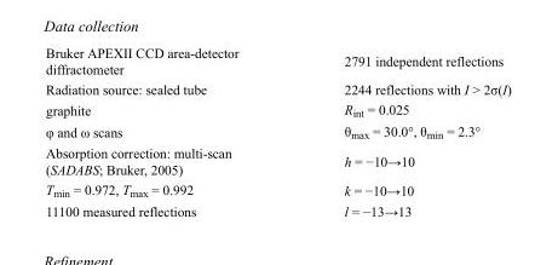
<table><tbody><tr><td>Bruker APEXII CCD area-detector diffractometer</td><td>2791 independent reflections</td></tr><tr><td>Radiation source: sealed tube</td><td>2244 reflections with I &gt; 2σ(I)</td></tr><tr><td>graphite</td><td>R<sub>int</sub> = 0.025</td></tr><tr><td>φ and ω scans</td><td>θ<sub>max</sub> = 30.0°, θ<sub>min</sub> = 2.3°</td></tr><tr><td>Absorption correction: multi-scan (SADABS; Bruker, 2005)</td><td>h = −10→10</td></tr><tr><td>T<sub>min</sub> = 0.972, T<sub>max</sub> = 0.992</td><td>k = −10→10</td></tr><tr><td>11100 measured reflections</td><td>l = −13→13</td></tr></tbody></table>